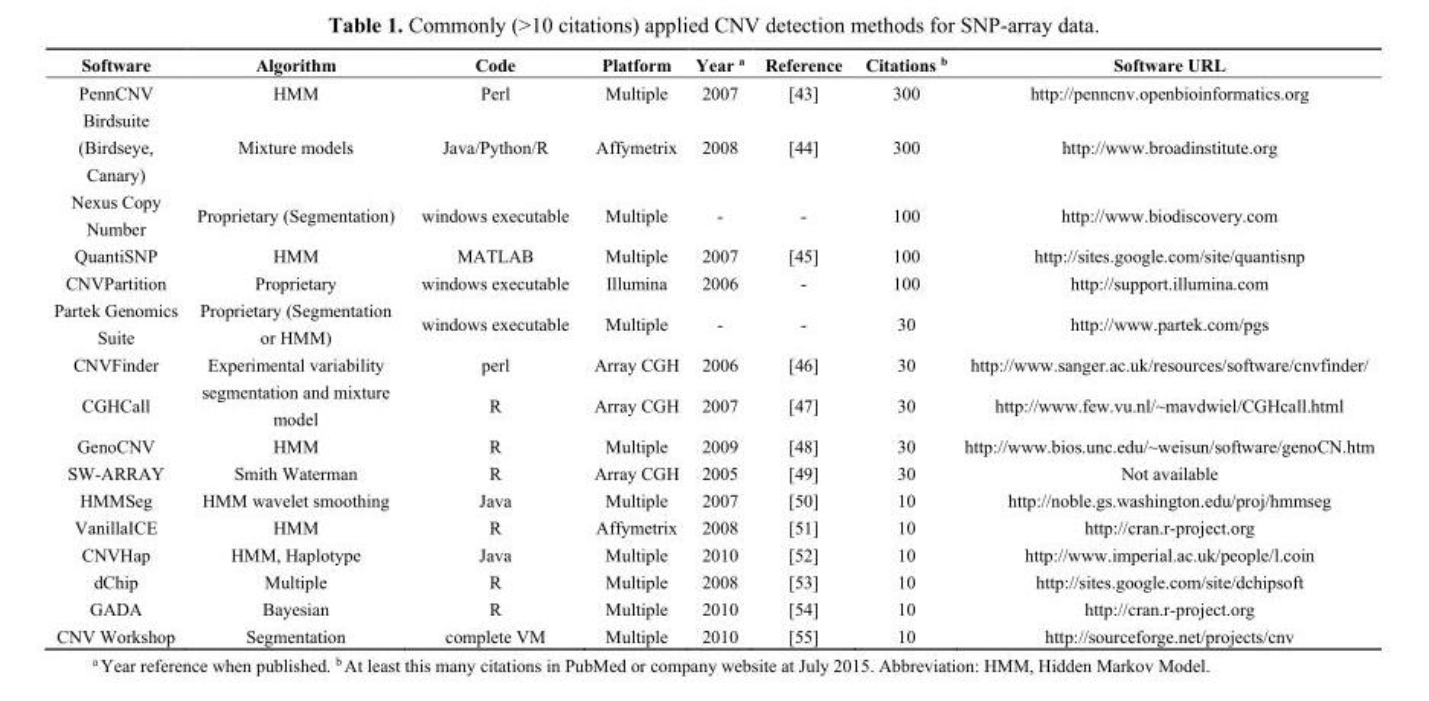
<table><thead><tr><td>Software</td><td>Algorithm</td><td>Code</td><td>Platform</td><td>Year <sup>a</sup></td><td>Reference</td><td>Citations <sup>b</sup></td><td>Software URL</td></tr></thead><tbody><tr><td>PennCNV</td><td>HMM</td><td>Perl</td><td>Multiple</td><td>2007</td><td>[43]</td><td>300</td><td>http://penncnv.openbioinformatics.org</td></tr><tr><td>Birdsuite (Birdseye, Canary)</td><td>Mixture models</td><td>Java/Python/R</td><td>Affymetrix</td><td>2008</td><td>[44]</td><td>300</td><td>http://www.broadinstitute.org</td></tr><tr><td>Nexus Copy Number</td><td>Proprietary (Segmentation)</td><td>windows executable</td><td>Multiple</td><td>-</td><td>-</td><td>100</td><td>http://www.biodiscovery.com</td></tr><tr><td>QuantiSNP</td><td>HMM</td><td>MATLAB</td><td>Multiple</td><td>2007</td><td>[45]</td><td>100</td><td>http://sites.google.com/site/quantisnp</td></tr><tr><td>CNVPartition</td><td>Proprietary</td><td>windows executable</td><td>Illumina</td><td>2006</td><td>-</td><td>100</td><td>http://support.illumina.com</td></tr><tr><td>Partek Genomics Suite</td><td>Proprietary (Segmentation or HMM)</td><td>windows executable</td><td>Multiple</td><td>-</td><td>-</td><td>30</td><td>http://www.partek.com/pgs</td></tr><tr><td>CNVFinder</td><td>Experimental variability</td><td>perl</td><td>Array CGH</td><td>2006</td><td>[46]</td><td>30</td><td>http://www.sanger.ac.uk/resources/software/cnvfinder/</td></tr><tr><td>CGHCall</td><td>segmentation and mixture model</td><td>R</td><td>Array CGH</td><td>2007</td><td>[47]</td><td>30</td><td>http://www.few.vu.nl/~mavdwiel/CGHcall.html</td></tr><tr><td>GenoCNV</td><td>HMM</td><td>R</td><td>Multiple</td><td>2009</td><td>[48]</td><td>30</td><td>http://www.bios.unc.edu/~weisun/software/genoCN.htm</td></tr><tr><td>SW-ARRAY</td><td>Smith Waterman</td><td>R</td><td>Array CGH</td><td>2005</td><td>[49]</td><td>30</td><td>Not available</td></tr><tr><td>HMMSeg</td><td>HMM wavelet smoothing</td><td>Java</td><td>Multiple</td><td>2007</td><td>[50]</td><td>10</td><td>http://noble.gs.washington.edu/proj/hmmseg</td></tr><tr><td>VanillaICE</td><td>HMM</td><td>R</td><td>Affymetrix</td><td>2008</td><td>[51]</td><td>10</td><td>http://cran.r-project.org</td></tr><tr><td>CNVHap</td><td>HMM, Haplotype</td><td>Java</td><td>Multiple</td><td>2010</td><td>[52]</td><td>10</td><td>http://www.imperial.ac.uk/people/l.coin</td></tr><tr><td>dChip</td><td>Multiple</td><td>R</td><td>Multiple</td><td>2008</td><td>[53]</td><td>10</td><td>http://sites.google.com/site/dchipsoft</td></tr><tr><td>GADA</td><td>Bayesian</td><td>R</td><td>Multiple</td><td>2010</td><td>[54]</td><td>10</td><td>http://cran.r-project.org</td></tr><tr><td>CNV Workshop</td><td>Segmentation</td><td>complete VM</td><td>Multiple</td><td>2010</td><td>[55]</td><td>10</td><td>http://sourceforge.net/projects/cnv</td></tr></tbody></table>